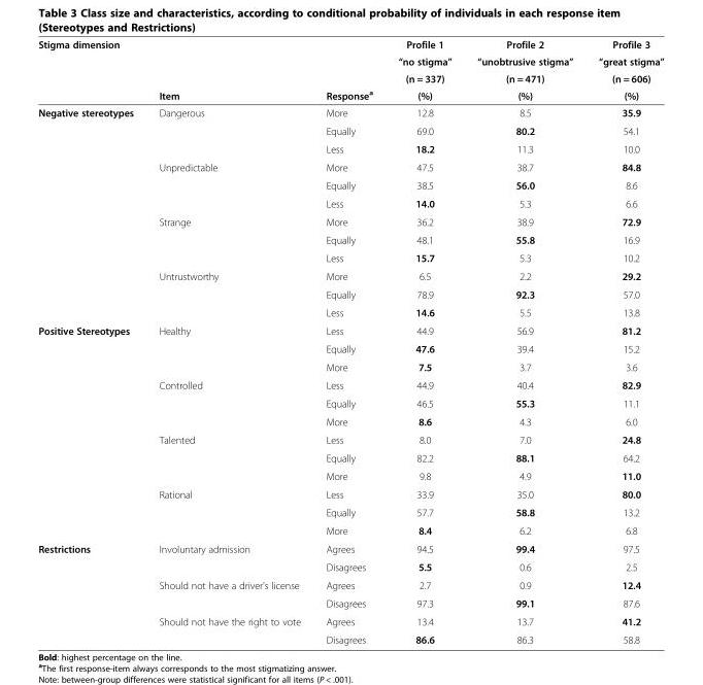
<table><thead><tr><td rowspan="4">Stigma dimension</td><td rowspan="4">Item</td><td rowspan="4">Response<sup>a</sup></td><td rowspan="4">Profile 1 “no stigma” (n = 337) (%)</td><td rowspan="4">Profile 2 “unobtrusive stigma” (n = 471) (%)</td><td rowspan="4">Profile 3 “great stigma” (n = 606) (%)</td></tr><tr></tr><tr></tr><tr></tr></thead><tbody><tr><td rowspan="12">Negative stereotypes</td><td rowspan="3">Dangerous</td><td>More</td><td>12.8</td><td>8.5</td><td>35.9</td></tr><tr><td>Equally</td><td>69.0</td><td>80.2</td><td>54.1</td></tr><tr><td>Less</td><td>18.2</td><td>11.3</td><td>10.0</td></tr><tr><td rowspan="3">Unpredictable</td><td>More</td><td>47.5</td><td>38.7</td><td>84.8</td></tr><tr><td>Equally</td><td>38.5</td><td>56.0</td><td>8.6</td></tr><tr><td>Less</td><td>14.0</td><td>5.3</td><td>6.6</td></tr><tr><td rowspan="3">Strange</td><td>More</td><td>36.2</td><td>38.9</td><td>72.9</td></tr><tr><td>Equally</td><td>48.1</td><td>55.8</td><td>16.9</td></tr><tr><td>Less</td><td>15.7</td><td>5.3</td><td>10.2</td></tr><tr><td rowspan="3">Untrustworthy</td><td>More</td><td>6.5</td><td>2.2</td><td>29.2</td></tr><tr><td>Equally</td><td>78.9</td><td>92.3</td><td>57.0</td></tr><tr><td>Less</td><td>14.6</td><td>5.5</td><td>13.8</td></tr><tr><td rowspan="12">Positive Stereotypes</td><td rowspan="3">Healthy</td><td>Less</td><td>44.9</td><td>56.9</td><td>81.2</td></tr><tr><td>Equally</td><td>47.6</td><td>39.4</td><td>15.2</td></tr><tr><td>More</td><td>7.5</td><td>3.7</td><td>3.6</td></tr><tr><td rowspan="3">Controlled</td><td>Less</td><td>44.9</td><td>40.4</td><td>82.9</td></tr><tr><td>Equally</td><td>46.5</td><td>55.3</td><td>11.1</td></tr><tr><td>More</td><td>8.6</td><td>4.3</td><td>6.0</td></tr><tr><td rowspan="3">Talented</td><td>Less</td><td>8.0</td><td>7.0</td><td>24.8</td></tr><tr><td>Equally</td><td>82.2</td><td>88.1</td><td>64.2</td></tr><tr><td>More</td><td>9.8</td><td>4.9</td><td>11.0</td></tr><tr><td rowspan="3">Rational</td><td>Less</td><td>33.9</td><td>35.0</td><td>80.0</td></tr><tr><td>Equally</td><td>57.7</td><td>58.8</td><td>13.2</td></tr><tr><td>More</td><td>8.4</td><td>6.2</td><td>6.8</td></tr><tr><td rowspan="6">Restrictions</td><td rowspan="2">Involuntary admission</td><td>Agrees</td><td>94.5</td><td>99.4</td><td>97.5</td></tr><tr><td>Disagrees</td><td>5.5</td><td>0.6</td><td>2.5</td></tr><tr><td rowspan="2">Should not have a driver’s license</td><td>Agrees</td><td>2.7</td><td>0.9</td><td>12.4</td></tr><tr><td>Disagrees</td><td>97.3</td><td>99.1</td><td>87.6</td></tr><tr><td>Should not have the right to vote</td><td>Agrees</td><td>13.4</td><td>13.7</td><td>41.2</td></tr><tr><td></td><td>Disagrees</td><td>86.6</td><td>86.3</td><td>58.8</td></tr></tbody></table>